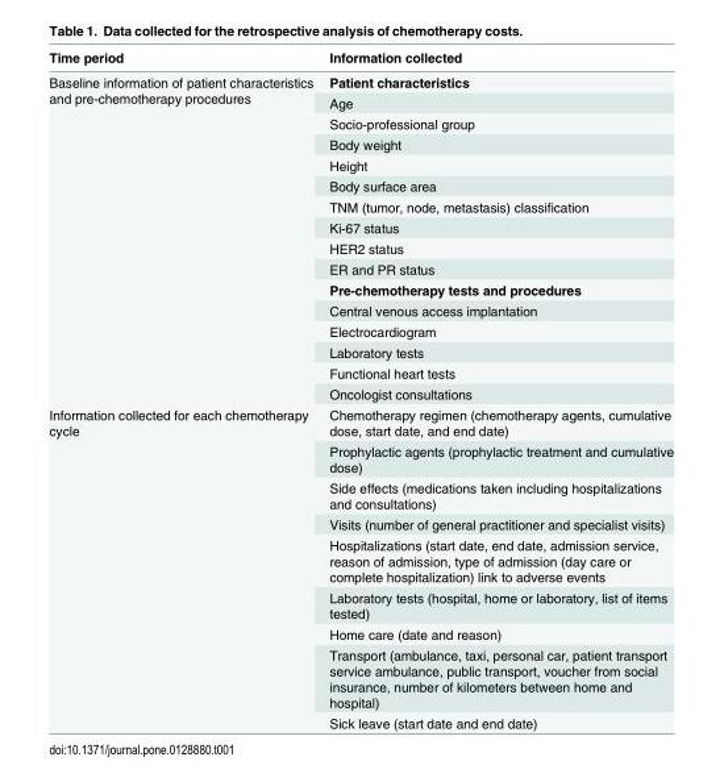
<table><thead><tr><td>Time period</td><td>Information collected</td></tr></thead><tbody><tr><td rowspan="16">Baseline information of patient characteristics and pre-chemotherapy procedures</td><td>Patient characteristics</td></tr><tr><td>Age</td></tr><tr><td>Socio-professional group</td></tr><tr><td>Body weight</td></tr><tr><td>Height</td></tr><tr><td>Body surface area</td></tr><tr><td>TNM (tumor, node, metastasis) classification</td></tr><tr><td>Ki-67 status</td></tr><tr><td>HER2 status</td></tr><tr><td>ER and PR status</td></tr><tr><td>Pre-chemotherapy tests and procedures</td></tr><tr><td>Central venous access implantation</td></tr><tr><td>Electrocardiogram</td></tr><tr><td>Laboratory tests</td></tr><tr><td>Functional heart tests</td></tr><tr><td>Oncologist consultations</td></tr><tr><td rowspan="9">Information collected for each chemotherapy cycle</td><td>Chemotherapy regimen (chemotherapy agents, cumulative dose, start date, and end date)</td></tr><tr><td>Prophylactic agents (prophylactic treatment and cumulative dose)</td></tr><tr><td>Side effects (medications taken including hospitalizations and consultations)</td></tr><tr><td>Visits (number of general practitioner and specialist visits)</td></tr><tr><td>Hospitalizations (start date, end date, admission service, reason of admission, type of admission (day care or complete hospitalization) link to adverse events</td></tr><tr><td>Laboratory tests (hospital, home or laboratory, list of items tested)</td></tr><tr><td>Home care (date and reason)</td></tr><tr><td>Transport (ambulance, taxi, personal car, patient transport service ambulance, public transport, voucher from social insurance, number of kilometers between home and hospital)</td></tr><tr><td>Sick leave (start date and end date)</td></tr></tbody></table>